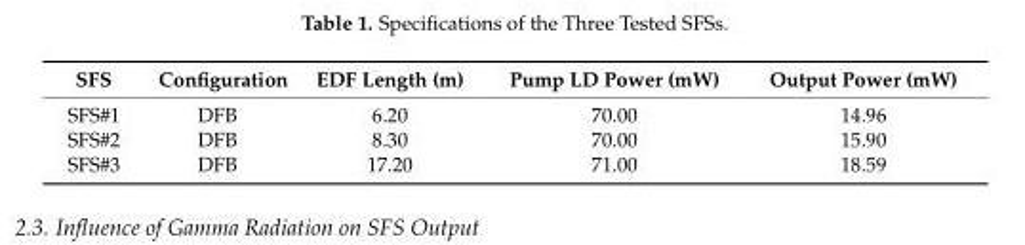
<table><thead><tr><td>SFS</td><td>Configuration</td><td>EDF Length (m)</td><td>Pump LD Power (mW)</td><td>Output Power (mW)</td></tr></thead><tbody><tr><td>SFS#1</td><td>DFB</td><td>6.20</td><td>70.00</td><td>14.96</td></tr><tr><td>SFS#2</td><td>DFB</td><td>8.30</td><td>70.00</td><td>15.90</td></tr><tr><td>SFS#3</td><td>DFB</td><td>17.20</td><td>71.00</td><td>18.59</td></tr></tbody></table>